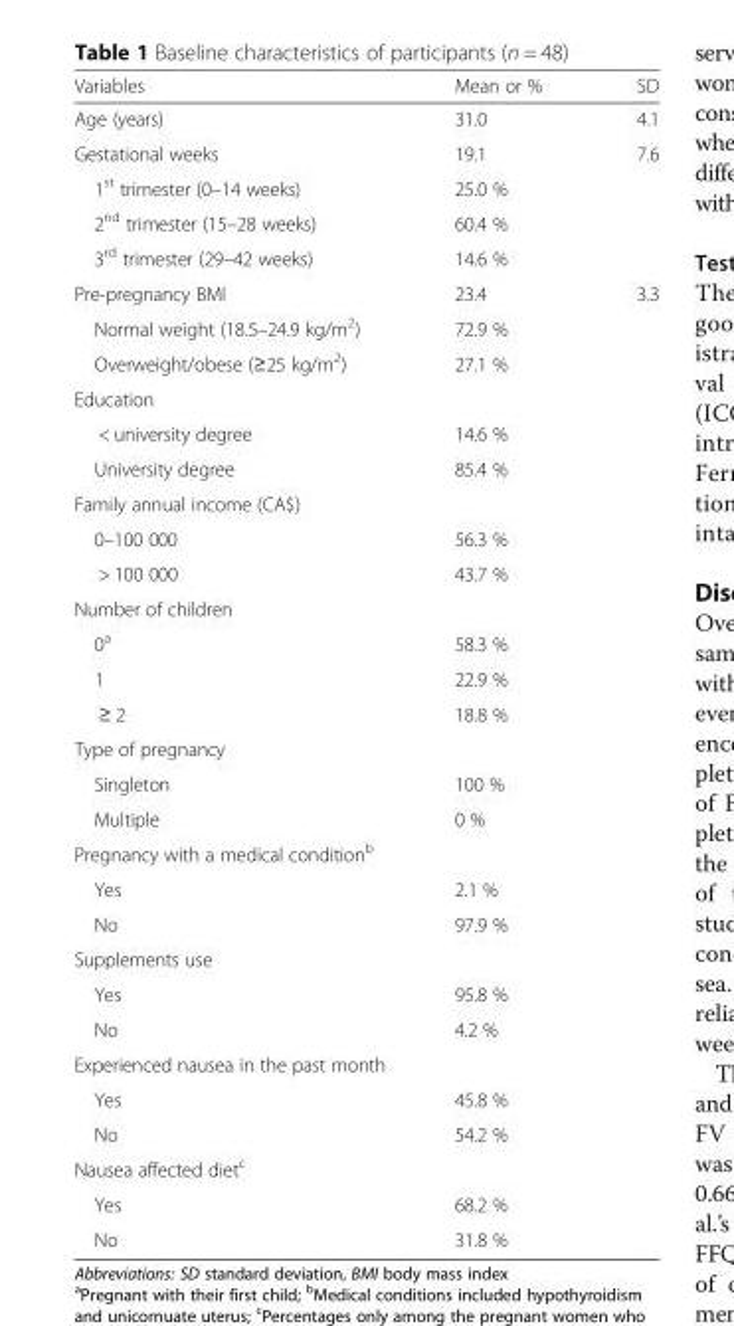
<table><thead><tr><td>Variables</td><td>Mean or %</td><td>SD</td></tr></thead><tbody><tr><td>Age (years)</td><td>31.0</td><td>4.1</td></tr><tr><td>Gestational weeks</td><td>19.1</td><td>7.6</td></tr><tr><td>1<sup>st</sup> trimester (0–14 weeks)</td><td>25.0 %</td><td></td></tr><tr><td>2<sup>nd</sup> trimester (15–28 weeks)</td><td>60.4 %</td><td></td></tr><tr><td>3<sup>rd</sup> trimester (29–42 weeks)</td><td>14.6 %</td><td></td></tr><tr><td>Pre-pregnancy BMI</td><td>23.4</td><td>3.3</td></tr><tr><td>Normal weight (18.5–24.9 kg/m<sup>2</sup>)</td><td>72.9 %</td><td></td></tr><tr><td>Overweight/obese (≥25 kg/m<sup>2</sup>)</td><td>27.1 %</td><td></td></tr><tr><td colspan="3">Education</td></tr><tr><td>&lt; university degree</td><td>14.6 %</td><td></td></tr><tr><td>University degree</td><td>85.4 %</td><td></td></tr><tr><td colspan="3">Family annual income (CA$)</td></tr><tr><td>0–100 000</td><td>56.3 %</td><td></td></tr><tr><td>&gt; 100 000</td><td>43.7 %</td><td></td></tr><tr><td colspan="3">Number of children</td></tr><tr><td>0<sup>a</sup></td><td>58.3 %</td><td></td></tr><tr><td>1</td><td>22.9 %</td><td></td></tr><tr><td>≥ 2</td><td>18.8 %</td><td></td></tr><tr><td colspan="3">Type of pregnancy</td></tr><tr><td>Singleton</td><td>100 %</td><td></td></tr><tr><td>Multiple</td><td>0 %</td><td></td></tr><tr><td colspan="3">Pregnancy with a medical condition<sup>b</sup></td></tr><tr><td>Yes</td><td>2.1 %</td><td></td></tr><tr><td>No</td><td>97.9 %</td><td></td></tr><tr><td colspan="3">Supplements use</td></tr><tr><td>Yes</td><td>95.8 %</td><td></td></tr><tr><td>No</td><td>4.2 %</td><td></td></tr><tr><td colspan="3">Experienced nausea in the past month</td></tr><tr><td>Yes</td><td>45.8 %</td><td></td></tr><tr><td>No</td><td>54.2 %</td><td></td></tr><tr><td colspan="3">Nausea affected diet<sup>c</sup></td></tr><tr><td>Yes</td><td>68.2 %</td><td></td></tr><tr><td>No</td><td>31.8 %</td><td></td></tr></tbody></table>